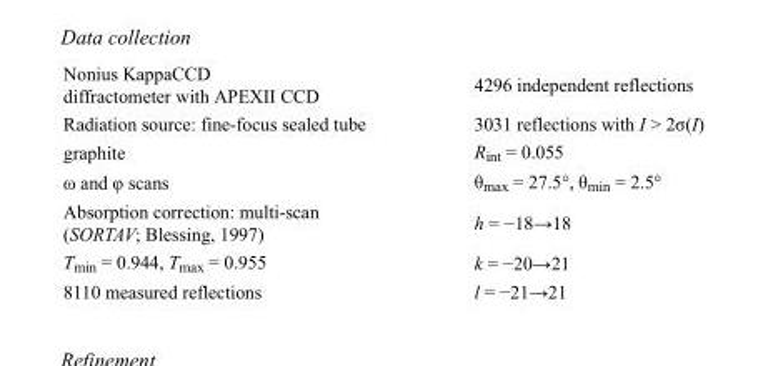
<table><tbody><tr><td>Nonius KappaCCD diffractometer with APEXII CCD</td><td>4296 independent reflections</td></tr><tr><td>Radiation source: fine-focus sealed tube</td><td>3031 reflections with I &gt; 2σ(I)</td></tr><tr><td>graphite</td><td>R<sub>int</sub> = 0.055</td></tr><tr><td>ω and φ scans</td><td>θ<sub>max</sub> = 27.5°, θ<sub>min</sub> = 2.5°</td></tr><tr><td>Absorption correction: multi-scan (SORTAV; Blessing, 1997)</td><td>h = −18→18</td></tr><tr><td>T<sub>min</sub> = 0.944, T<sub>max</sub> = 0.955</td><td>k = −20→21</td></tr><tr><td>8110 measured reflections</td><td>l = −21→21</td></tr></tbody></table>